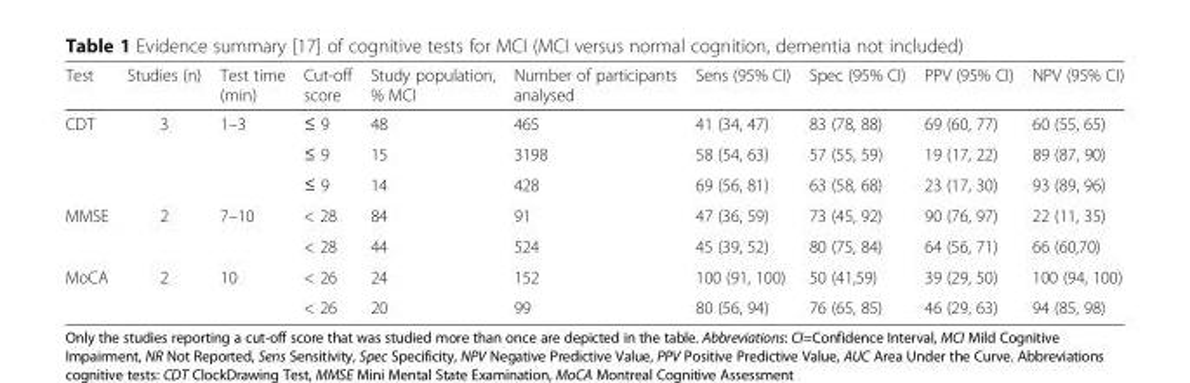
<table><thead><tr><td>Test</td><td>Studies (n)</td><td>Test time (min)</td><td>Cut-off score</td><td>Study population, % MCI</td><td>Number of participants analysed</td><td>Sens (95% CI)</td><td>Spec (95% CI)</td><td>PPV (95% CI)</td><td>NPV (95% CI)</td></tr></thead><tbody><tr><td rowspan="3">CDT</td><td>3</td><td>1–3</td><td>≤ 9</td><td>48</td><td>465</td><td>41 (34, 47)</td><td>83 (78, 88)</td><td>69 (60, 77)</td><td>60 (55, 65)</td></tr><tr><td></td><td></td><td>≤ 9</td><td>15</td><td>3198</td><td>58 (54, 63)</td><td>57 (55, 59)</td><td>19 (17, 22)</td><td>89 (87, 90)</td></tr><tr><td></td><td></td><td>≤ 9</td><td>14</td><td>428</td><td>69 (56, 81)</td><td>63 (58, 68)</td><td>23 (17, 30)</td><td>93 (89, 96)</td></tr><tr><td rowspan="2">MMSE</td><td>2</td><td>7–10</td><td>&lt; 28</td><td>84</td><td>91</td><td>47 (36, 59)</td><td>73 (45, 92)</td><td>90 (76, 97)</td><td>22 (11, 35)</td></tr><tr><td></td><td></td><td>&lt; 28</td><td>44</td><td>524</td><td>45 (39, 52)</td><td>80 (75, 84)</td><td>64 (56, 71)</td><td>66 (60,70)</td></tr><tr><td rowspan="2">MoCA</td><td>2</td><td>10</td><td>&lt; 26</td><td>24</td><td>152</td><td>100 (91, 100)</td><td>50 (41,59)</td><td>39 (29, 50)</td><td>100 (94, 100)</td></tr><tr><td></td><td></td><td>&lt; 26</td><td>20</td><td>99</td><td>80 (56, 94)</td><td>76 (65, 85)</td><td>46 (29, 63)</td><td>94 (85, 98)</td></tr></tbody></table>